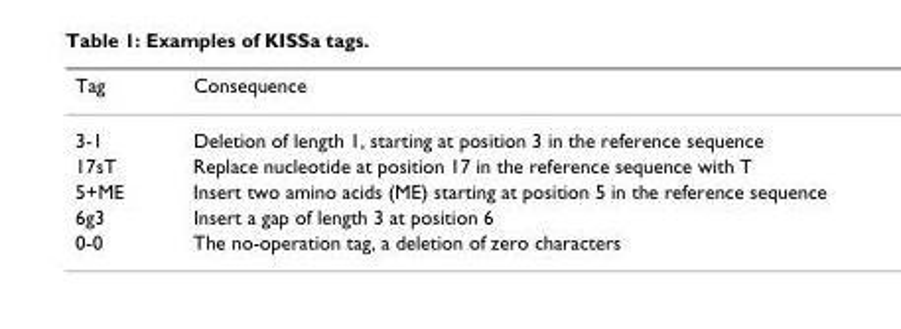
<table><thead><tr><td>Tag</td><td>Consequence</td></tr></thead><tbody><tr><td>3-1</td><td>Deletion of length 1, starting at position 3 in the reference sequence</td></tr><tr><td>17sT</td><td>Replace nucleotide at position 17 in the reference sequence with T</td></tr><tr><td>5+ME</td><td>Insert two amino acids (ME) starting at position 5 in the reference sequence</td></tr><tr><td>6g3</td><td>Insert a gap of length 3 at position 6</td></tr><tr><td>0-0</td><td>The no-operation tag, a deletion of zero characters</td></tr></tbody></table>